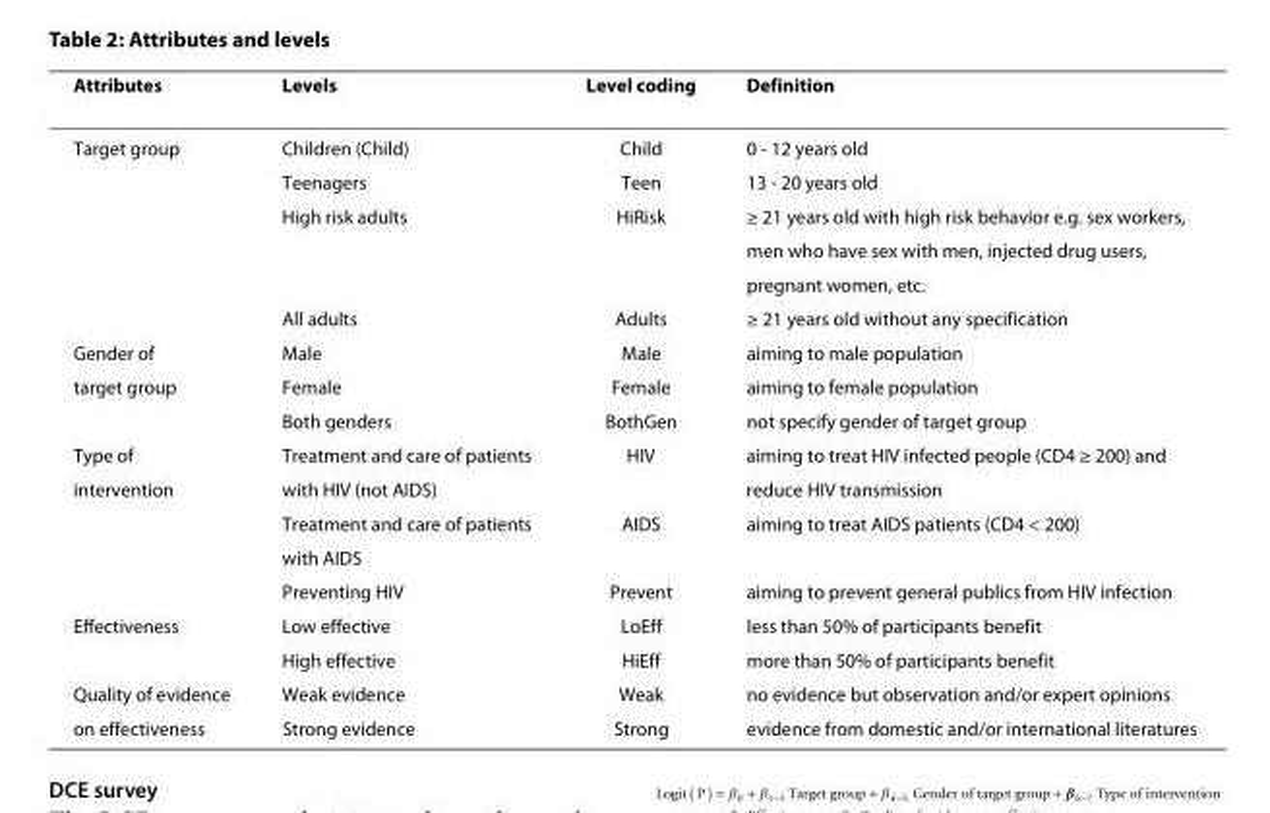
<table><thead><tr><td>Attributes</td><td>Levels</td><td>Level coding</td><td>Definition</td></tr></thead><tbody><tr><td rowspan="6">Target group</td><td>Children (Child)</td><td>Child</td><td>0 - 12 years old</td></tr><tr><td>Teenagers</td><td>Teen</td><td>13 - 20 years old</td></tr><tr><td>High risk adults</td><td>HiRisk</td><td>≥ 21 years old with high risk behavior e.g. sex workers,</td></tr><tr><td></td><td></td><td>men who have sex with men, injected drug users,</td></tr><tr><td></td><td></td><td>pregnant women, etc.</td></tr><tr><td>All adults</td><td>Adults</td><td>≥ 21 years old without any specification</td></tr><tr><td>Gender of</td><td>Male</td><td>Male</td><td>aiming to male population</td></tr><tr><td rowspan="2">target group</td><td>Female</td><td>Female</td><td>aiming to female population</td></tr><tr><td>Both genders</td><td>BothGen</td><td>not specify gender of target group</td></tr><tr><td>Type of</td><td>Treatment and care of patients</td><td>HIV</td><td>aiming to treat HIV infected people (CD4 ≥ 200) and</td></tr><tr><td rowspan="4">intervention</td><td>with HIV (not AIDS)</td><td></td><td>reduce HIV transmission</td></tr><tr><td>Treatment and care of patients</td><td>AIDS</td><td>aiming to treat AIDS patients (CD4 &lt; 200)</td></tr><tr><td>with AIDS</td><td></td><td></td></tr><tr><td>Preventing HIV</td><td>Prevent</td><td>aiming to prevent general publics from HIV infection</td></tr><tr><td rowspan="2">Effectiveness</td><td>Low effective</td><td>LoEff</td><td>less than 50% of participants benefit</td></tr><tr><td>High effective</td><td>HiEff</td><td>more than 50% of participants benefit</td></tr><tr><td>Quality of evidence</td><td>Weak evidence</td><td>Weak</td><td>no evidence but observation and/or expert opinions</td></tr><tr><td>on effectiveness</td><td>Strong evidence</td><td>Strong</td><td>evidence from domestic and/or international literatures</td></tr></tbody></table>